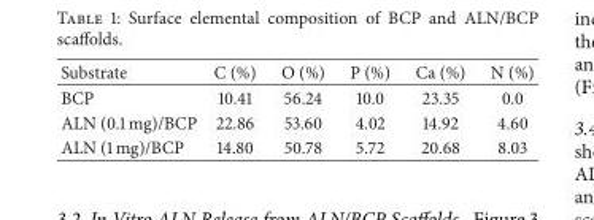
<table><thead><tr><td>Substrate</td><td>C (%)</td><td>O (%)</td><td>P (%)</td><td>Ca (%)</td><td>N (%)</td></tr></thead><tbody><tr><td>BCP</td><td>10.41</td><td>56.24</td><td>10.0</td><td>23.35</td><td>0.0</td></tr><tr><td>ALN (0.1 mg)/BCP</td><td>22.86</td><td>53.60</td><td>4.02</td><td>14.92</td><td>4.60</td></tr><tr><td>ALN (1 mg)/BCP</td><td>14.80</td><td>50.78</td><td>5.72</td><td>20.68</td><td>8.03</td></tr></tbody></table>